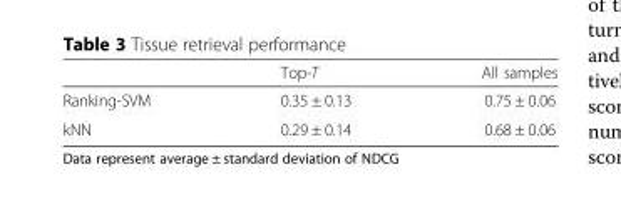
<table><thead><tr><td></td><td>Top-T</td><td>All samples</td></tr></thead><tbody><tr><td>Ranking-SVM</td><td>0.35 ± 0.13</td><td>0.75 ± 0.06</td></tr><tr><td>kNN</td><td>0.29 ± 0.14</td><td>0.68 ± 0.06</td></tr></tbody></table>